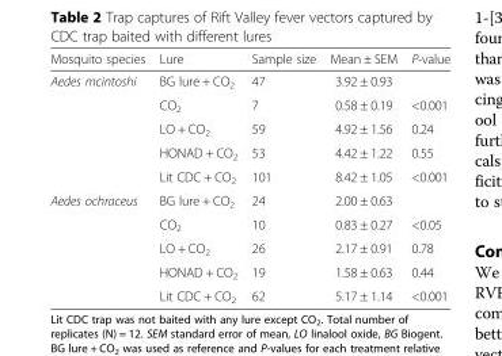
<table><thead><tr><td>Mosquito species</td><td>Lure</td><td>Sample size</td><td>Mean ± SEM</td><td>P-value</td></tr></thead><tbody><tr><td rowspan="5">Aedes mcintoshi</td><td>BG lure + CO<sub>2</sub></td><td>47</td><td>3.92 ± 0.93</td><td></td></tr><tr><td>CO<sub>2</sub></td><td>7</td><td>0.58 ± 0.19</td><td>&lt;0.001</td></tr><tr><td>LO + CO<sub>2</sub></td><td>59</td><td>4.92 ± 1.56</td><td>0.24</td></tr><tr><td>HONAD + CO<sub>2</sub></td><td>53</td><td>4.42 ± 1.22</td><td>0.55</td></tr><tr><td>Lit CDC + CO<sub>2</sub></td><td>101</td><td>8.42 ± 1.05</td><td>&lt;0.001</td></tr><tr><td rowspan="5">Aedes ochraceus</td><td>BG lure + CO<sub>2</sub></td><td>24</td><td>2.00 ± 0.63</td><td></td></tr><tr><td>CO<sub>2</sub></td><td>10</td><td>0.83 ± 0.27</td><td>&lt;0.05</td></tr><tr><td>LO + CO<sub>2</sub></td><td>26</td><td>2.17 ± 0.91</td><td>0.78</td></tr><tr><td>HONAD + CO<sub>2</sub></td><td>19</td><td>1.58 ± 0.63</td><td>0.44</td></tr><tr><td>Lit CDC + CO<sub>2</sub></td><td>62</td><td>5.17 ± 1.14</td><td>&lt;0.001</td></tr></tbody></table>